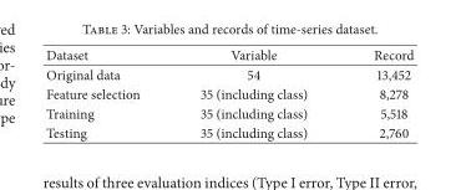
<table><thead><tr><td>Dataset</td><td>Variable</td><td>Record</td></tr></thead><tbody><tr><td>Original data</td><td>54</td><td>13,452</td></tr><tr><td>Feature selection</td><td>35 (including class)</td><td>8,278</td></tr><tr><td>Training</td><td>35 (including class)</td><td>5,518</td></tr><tr><td>Testing</td><td>35 (including class)</td><td>2,760</td></tr></tbody></table>